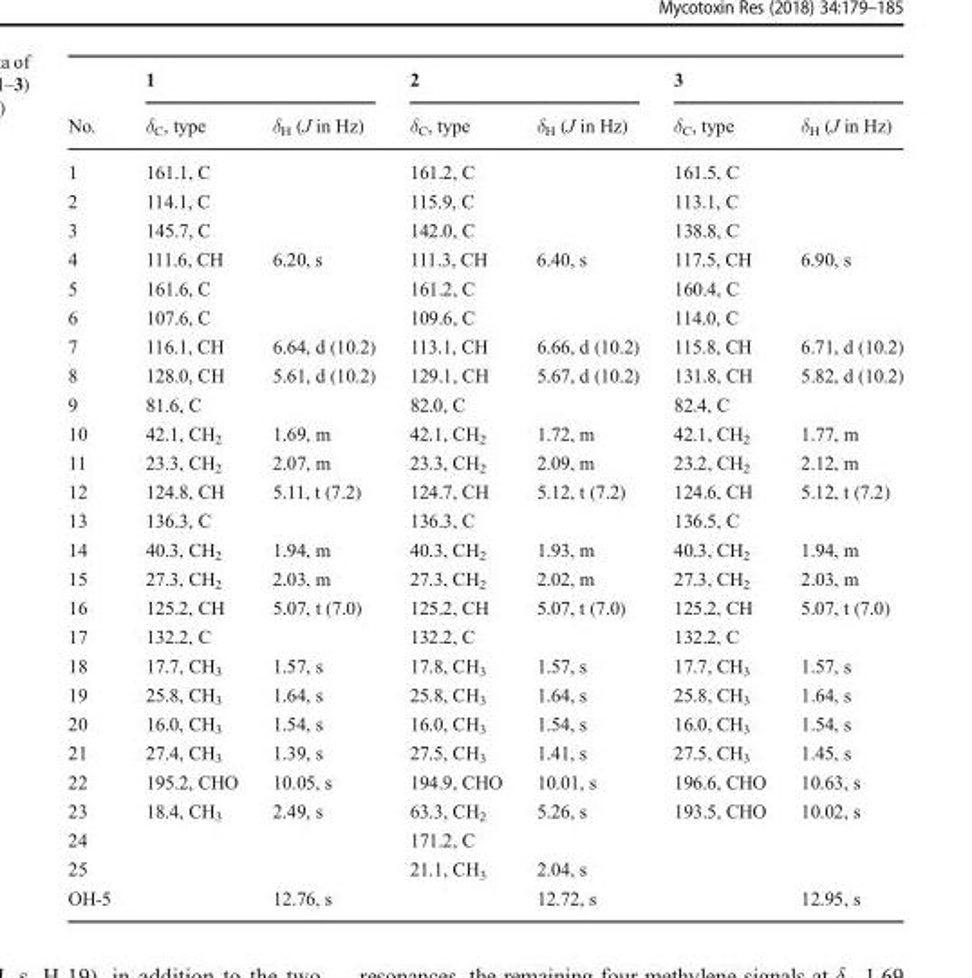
<table><thead><tr><td rowspan="2">No.</td><td colspan="2">1</td><td colspan="2">2</td><td colspan="2">3</td></tr><tr><td>δ<sub>C</sub>, type</td><td>δ<sub>H</sub> (J in Hz)</td><td>δ<sub>C</sub>, type</td><td>δ<sub>H</sub> (J in Hz)</td><td>δ<sub>C</sub>, type</td><td>δ<sub>H</sub> (J in Hz)</td></tr></thead><tbody><tr><td>1</td><td>161.1, C</td><td></td><td>161.2, C</td><td></td><td>161.5, C</td><td></td></tr><tr><td>2</td><td>114.1, C</td><td></td><td>115.9, C</td><td></td><td>113.1, C</td><td></td></tr><tr><td>3</td><td>145.7, C</td><td></td><td>142.0, C</td><td></td><td>138.8, C</td><td></td></tr><tr><td>4</td><td>111.6, CH</td><td>6.20, s</td><td>111.3, CH</td><td>6.40, s</td><td>117.5, CH</td><td>6.90, s</td></tr><tr><td>5</td><td>161.6, C</td><td></td><td>161.2, C</td><td></td><td>160.4, C</td><td></td></tr><tr><td>6</td><td>107.6, C</td><td></td><td>109.6, C</td><td></td><td>114.0, C</td><td></td></tr><tr><td>7</td><td>116.1, CH</td><td>6.64, d (10.2)</td><td>113.1, CH</td><td>6.66, d (10.2)</td><td>115.8, CH</td><td>6.71, d (10.2)</td></tr><tr><td>8</td><td>128.0, CH</td><td>5.61, d (10.2)</td><td>129.1, CH</td><td>5.67, d (10.2)</td><td>131.8, CH</td><td>5.82, d (10.2)</td></tr><tr><td>9</td><td>81.6, C</td><td></td><td>82.0, C</td><td></td><td>82.4, C</td><td></td></tr><tr><td>10</td><td>42.1, CH<sub>2</sub></td><td>1.69, m</td><td>42.1, CH<sub>2</sub></td><td>1.72, m</td><td>42.1, CH<sub>2</sub></td><td>1.77, m</td></tr><tr><td>11</td><td>23.3, CH<sub>2</sub></td><td>2.07, m</td><td>23.3, CH<sub>2</sub></td><td>2.09, m</td><td>23.2, CH<sub>2</sub></td><td>2.12, m</td></tr><tr><td>12</td><td>124.8, CH</td><td>5.11, t (7.2)</td><td>124.7, CH</td><td>5.12, t (7.2)</td><td>124.6, CH</td><td>5.12, t (7.2)</td></tr><tr><td>13</td><td>136.3, C</td><td></td><td>136.3, C</td><td></td><td>136.5, C</td><td></td></tr><tr><td>14</td><td>40.3, CH<sub>2</sub></td><td>1.94, m</td><td>40.3, CH<sub>2</sub></td><td>1.93, m</td><td>40.3, CH<sub>2</sub></td><td>1.94, m</td></tr><tr><td>15</td><td>27.3, CH<sub>2</sub></td><td>2.03, m</td><td>27.3, CH<sub>2</sub></td><td>2.02, m</td><td>27.3, CH<sub>2</sub></td><td>2.03, m</td></tr><tr><td>16</td><td>125.2, CH</td><td>5.07, t (7.0)</td><td>125.2, CH</td><td>5.07, t (7.0)</td><td>125.2, CH</td><td>5.07, t (7.0)</td></tr><tr><td>17</td><td>132.2, C</td><td></td><td>132.2, C</td><td></td><td>132.2, C</td><td></td></tr><tr><td>18</td><td>17.7, CH<sub>3</sub></td><td>1.57, s</td><td>17.8, CH<sub>3</sub></td><td>1.57, s</td><td>17.7, CH<sub>3</sub></td><td>1.57, s</td></tr><tr><td>19</td><td>25.8, CH<sub>3</sub></td><td>1.64, s</td><td>25.8, CH<sub>3</sub></td><td>1.64, s</td><td>25.8, CH<sub>3</sub></td><td>1.64, s</td></tr><tr><td>20</td><td>16.0, CH<sub>3</sub></td><td>1.54, s</td><td>16.0, CH<sub>3</sub></td><td>1.54, s</td><td>16.0, CH<sub>3</sub></td><td>1.54, s</td></tr><tr><td>21</td><td>27.4, CH<sub>3</sub></td><td>1.39, s</td><td>27.5, CH<sub>3</sub></td><td>1.41, s</td><td>27.5, CH<sub>3</sub></td><td>1.45, s</td></tr><tr><td>22</td><td>195.2, CHO</td><td>10.05, s</td><td>194.9, CHO</td><td>10.01, s</td><td>196.6, CHO</td><td>10.63, s</td></tr><tr><td>23</td><td>18.4, CH<sub>3</sub></td><td>2.49, s</td><td>63.3, CH<sub>2</sub></td><td>5.26, s</td><td>193.5, CHO</td><td>10.02, s</td></tr><tr><td>24</td><td></td><td></td><td>171.2, C</td><td></td><td></td><td></td></tr><tr><td>25</td><td></td><td></td><td>21.1, CH<sub>3</sub></td><td>2.04, s</td><td></td><td></td></tr><tr><td>OH-5</td><td></td><td>12.76, s</td><td></td><td>12.72, s</td><td></td><td>12.95, s</td></tr></tbody></table>